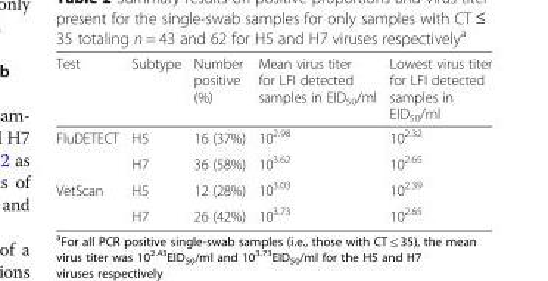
<table><thead><tr><td>Test</td><td>Subtype</td><td>Number positive (%)</td><td>Mean virus titer for LFI detected samples in EID<sub>50</sub>/ml</td><td>Lowest virus titer for LFI detected samples in EID<sub>50</sub>/ml</td></tr></thead><tbody><tr><td rowspan="2">FluDETECT</td><td>H5</td><td>16 (37%)</td><td>10<sup>2.98</sup></td><td>10<sup>2.32</sup></td></tr><tr><td>H7</td><td>36 (58%)</td><td>10<sup>3.62</sup></td><td>10<sup>2.65</sup></td></tr><tr><td rowspan="2">VetScan</td><td>H5</td><td>12 (28%)</td><td>10<sup>3.03</sup></td><td>10<sup>2.39</sup></td></tr><tr><td>H7</td><td>26 (42%)</td><td>10<sup>3.73</sup></td><td>10<sup>2.65</sup></td></tr></tbody></table>